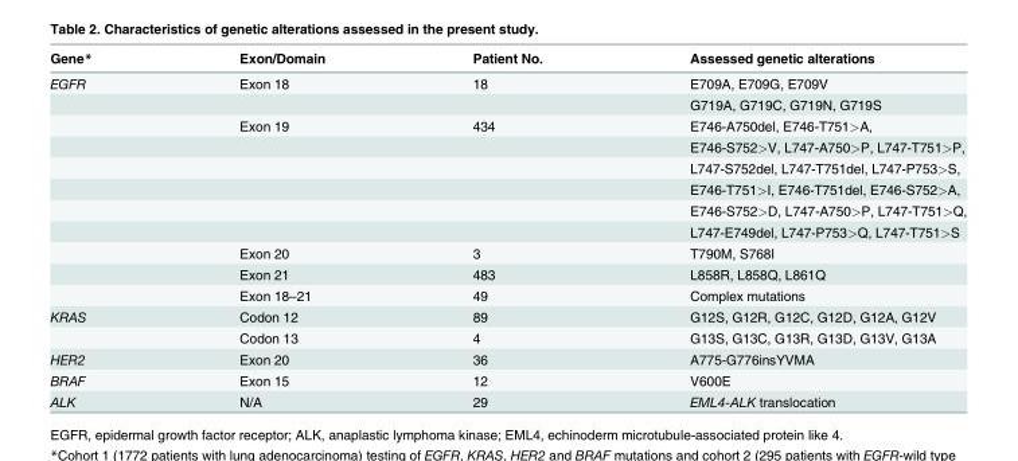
<table><thead><tr><td>Gene*</td><td>Exon/Domain</td><td>Patient No.</td><td>Assessed genetic alterations</td></tr></thead><tbody><tr><td rowspan="11">EGFR</td><td>Exon 18</td><td>18</td><td>E709A, E709G, E709V</td></tr><tr><td></td><td></td><td>G719A, G719C, G719N, G719S</td></tr><tr><td>Exon 19</td><td>434</td><td>E746-A750del, E746-T751&gt;A,</td></tr><tr><td></td><td></td><td>E746-S752&gt;V, L747-A750&gt;P, L747-T751&gt;P,</td></tr><tr><td></td><td></td><td>L747-S752del, L747-T751del, L747-P753&gt;S,</td></tr><tr><td></td><td></td><td>E746-T751&gt;I, E746-T751del, E746-S752&gt;A,</td></tr><tr><td></td><td></td><td>E746-S752&gt;D, L747-A750&gt;P, L747-T751&gt;Q,</td></tr><tr><td></td><td></td><td>L747-E749del, L747-P753&gt;Q, L747-T751&gt;S</td></tr><tr><td>Exon 20</td><td>3</td><td>T790M, S768I</td></tr><tr><td>Exon 21</td><td>483</td><td>L858R, L858Q, L861Q</td></tr><tr><td>Exon 18–21</td><td>49</td><td>Complex mutations</td></tr><tr><td rowspan="2">KRAS</td><td>Codon 12</td><td>89</td><td>G12S, G12R, G12C, G12D, G12A, G12V</td></tr><tr><td>Codon 13</td><td>4</td><td>G13S, G13C, G13R, G13D, G13V, G13A</td></tr><tr><td>HER2</td><td>Exon 20</td><td>36</td><td>A775-G776insYVMA</td></tr><tr><td>BRAF</td><td>Exon 15</td><td>12</td><td>V600E</td></tr><tr><td>ALK</td><td>N/A</td><td>29</td><td>EML4-ALK translocation</td></tr></tbody></table>